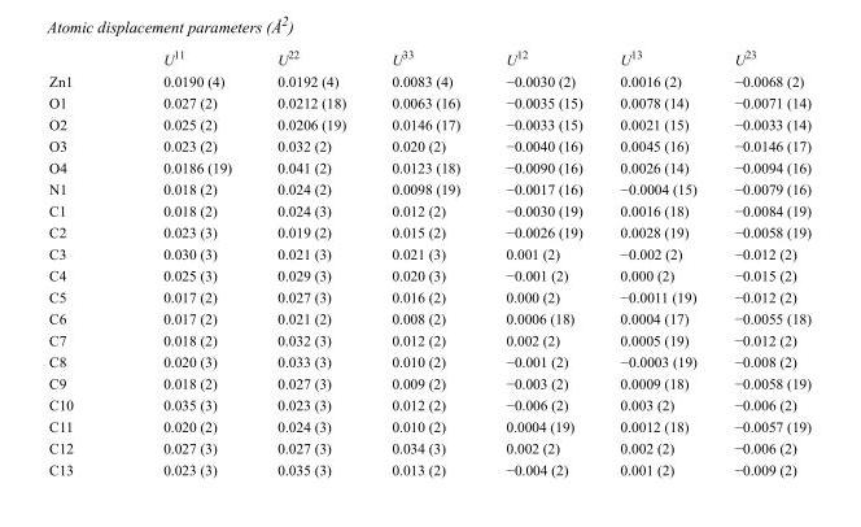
<table><thead><tr><td></td><td>U<sup>11</sup></td><td>U<sup>22</sup></td><td>U<sup>33</sup></td><td>U<sup>12</sup></td><td>U<sup>13</sup></td><td>U<sup>23</sup></td></tr></thead><tbody><tr><td>Zn1</td><td>0.0190 (4)</td><td>0.0192 (4)</td><td>0.0083 (4)</td><td>−0.0030 (2)</td><td>0.0016 (2)</td><td>−0.0068 (2)</td></tr><tr><td>O1</td><td>0.027 (2)</td><td>0.0212 (18)</td><td>0.0063 (16)</td><td>−0.0035 (15)</td><td>0.0078 (14)</td><td>−0.0071 (14)</td></tr><tr><td>O2</td><td>0.025 (2)</td><td>0.0206 (19)</td><td>0.0146 (17)</td><td>−0.0033 (15)</td><td>0.0021 (15)</td><td>−0.0033 (14)</td></tr><tr><td>O3</td><td>0.023 (2)</td><td>0.032 (2)</td><td>0.020 (2)</td><td>−0.0040 (16)</td><td>0.0045 (16)</td><td>−0.0146 (17)</td></tr><tr><td>O4</td><td>0.0186 (19)</td><td>0.041 (2)</td><td>0.0123 (18)</td><td>−0.0090 (16)</td><td>0.0026 (14)</td><td>−0.0094 (16)</td></tr><tr><td>N1</td><td>0.018 (2)</td><td>0.024 (2)</td><td>0.0098 (19)</td><td>−0.0017 (16)</td><td>−0.0004 (15)</td><td>−0.0079 (16)</td></tr><tr><td>C1</td><td>0.018 (2)</td><td>0.024 (3)</td><td>0.012 (2)</td><td>−0.0030 (19)</td><td>0.0016 (18)</td><td>−0.0084 (19)</td></tr><tr><td>C2</td><td>0.023 (3)</td><td>0.019 (2)</td><td>0.015 (2)</td><td>−0.0026 (19)</td><td>0.0028 (19)</td><td>−0.0058 (19)</td></tr><tr><td>C3</td><td>0.030 (3)</td><td>0.021 (3)</td><td>0.021 (3)</td><td>0.001 (2)</td><td>−0.002 (2)</td><td>−0.012 (2)</td></tr><tr><td>C4</td><td>0.025 (3)</td><td>0.029 (3)</td><td>0.020 (3)</td><td>−0.001 (2)</td><td>0.000 (2)</td><td>−0.015 (2)</td></tr><tr><td>C5</td><td>0.017 (2)</td><td>0.027 (3)</td><td>0.016 (2)</td><td>0.000 (2)</td><td>−0.0011 (19)</td><td>−0.012 (2)</td></tr><tr><td>C6</td><td>0.017 (2)</td><td>0.021 (2)</td><td>0.008 (2)</td><td>0.0006 (18)</td><td>0.0004 (17)</td><td>−0.0055 (18)</td></tr><tr><td>C7</td><td>0.018 (2)</td><td>0.032 (3)</td><td>0.012 (2)</td><td>0.002 (2)</td><td>0.0005 (19)</td><td>−0.012 (2)</td></tr><tr><td>C8</td><td>0.020 (3)</td><td>0.033 (3)</td><td>0.010 (2)</td><td>−0.001 (2)</td><td>−0.0003 (19)</td><td>−0.008 (2)</td></tr><tr><td>C9</td><td>0.018 (2)</td><td>0.027 (3)</td><td>0.009 (2)</td><td>−0.003 (2)</td><td>0.0009 (18)</td><td>−0.0058 (19)</td></tr><tr><td>C10</td><td>0.035 (3)</td><td>0.023 (3)</td><td>0.012 (2)</td><td>−0.006 (2)</td><td>0.003 (2)</td><td>−0.006 (2)</td></tr><tr><td>C11</td><td>0.020 (2)</td><td>0.024 (3)</td><td>0.010 (2)</td><td>0.0004 (19)</td><td>0.0012 (18)</td><td>−0.0057 (19)</td></tr><tr><td>C12</td><td>0.027 (3)</td><td>0.027 (3)</td><td>0.034 (3)</td><td>0.002 (2)</td><td>0.002 (2)</td><td>−0.006 (2)</td></tr><tr><td>C13</td><td>0.023 (3)</td><td>0.035 (3)</td><td>0.013 (2)</td><td>−0.004 (2)</td><td>0.001 (2)</td><td>−0.009 (2)</td></tr></tbody></table>